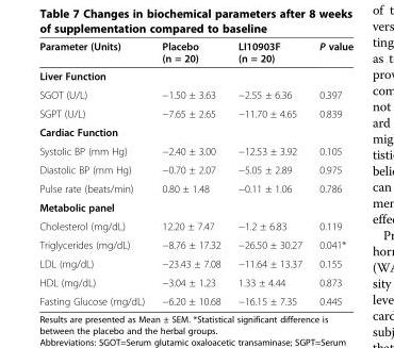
<table><thead><tr><td>Parameter (Units)</td><td>Placebo (n = 20)</td><td>LI10903F (n = 20)</td><td>P value</td></tr></thead><tbody><tr><td colspan="4">Liver Function</td></tr><tr><td>SGOT (U/L)</td><td>−1.50 ± 3.63</td><td>−2.55 ± 6.36</td><td>0.397</td></tr><tr><td>SGPT (U/L)</td><td>−7.65 ± 2.65</td><td>−11.70 ± 4.65</td><td>0.839</td></tr><tr><td colspan="4">Cardiac Function</td></tr><tr><td>Systolic BP (mm Hg)</td><td>−2.40 ± 3.00</td><td>−12.53 ± 3.92</td><td>0.105</td></tr><tr><td>Diastolic BP (mm Hg)</td><td>−0.70 ± 2.07</td><td>−5.05 ± 2.89</td><td>0.975</td></tr><tr><td>Pulse rate (beats/min)</td><td>0.80 ± 1.48</td><td>−0.11 ± 1.06</td><td>0.786</td></tr><tr><td colspan="4">Metabolic panel</td></tr><tr><td>Cholesterol (mg/dL)</td><td>12.20 ± 7.47</td><td>−1.2 ± 6.83</td><td>0.119</td></tr><tr><td>Triglycerides (mg/dL)</td><td>−8.76 ± 17.32</td><td>−26.50 ± 30.27</td><td>0.041*</td></tr><tr><td>LDL (mg/dL)</td><td>−23.43 ± 7.08</td><td>−11.64 ± 13.37</td><td>0.155</td></tr><tr><td>HDL (mg/dL)</td><td>−3.04 ± 1.23</td><td>1.33 ± 4.44</td><td>0.873</td></tr><tr><td>Fasting Glucose (mg/dL)</td><td>−6.20 ± 10.68</td><td>−16.15 ± 7.35</td><td>0.445</td></tr></tbody></table>